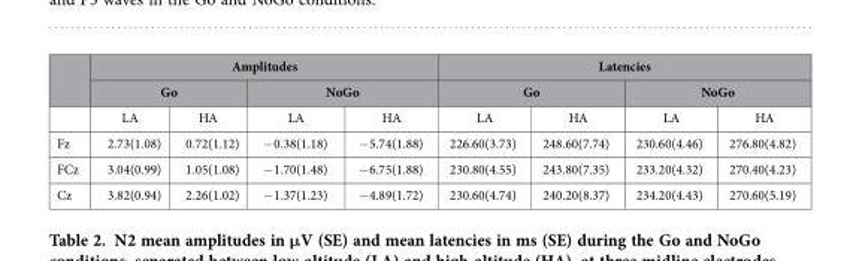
<table><thead><tr><td rowspan="3"></td><td colspan="4">Amplitudes</td><td colspan="4">Latencies</td></tr><tr><td colspan="2">Go</td><td colspan="2">NoGo</td><td colspan="2">Go</td><td colspan="2">NoGo</td></tr><tr><td>LA</td><td>HA</td><td>LA</td><td>HA</td><td>LA</td><td>HA</td><td>LA</td><td>HA</td></tr></thead><tbody><tr><td>Fz</td><td>2.73(1.08)</td><td>0.72(1.12)</td><td>− 0.38(1.18)</td><td>− 5.74(1.88)</td><td>226.60(3.73)</td><td>248.60(7.74)</td><td>230.60(4.46)</td><td>276.80(4.82)</td></tr><tr><td>FCz</td><td>3.04(0.99)</td><td>1.05(1.08)</td><td>− 1.70(1.48)</td><td>− 6.75(1.88)</td><td>230.80(4.55)</td><td>243.80(7.35)</td><td>233.20(4.32)</td><td>270.40(4.23)</td></tr><tr><td>Cz</td><td>3.82(0.94)</td><td>2.26(1.02)</td><td>− 1.37(1.23)</td><td>− 4.89(1.72)</td><td>230.60(4.74)</td><td>240.20(8.37)</td><td>234.20(4.43)</td><td>270.60(5.19)</td></tr></tbody></table>